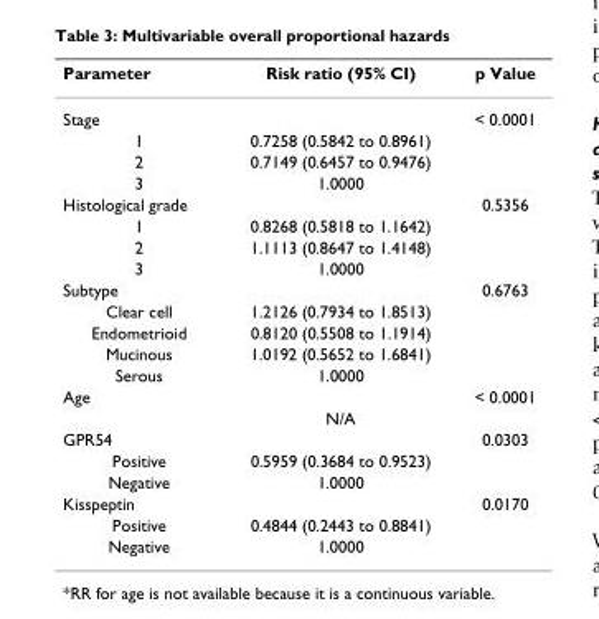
<table><thead><tr><td>Parameter</td><td>Risk ratio (95% CI)</td><td>p Value</td></tr></thead><tbody><tr><td>Stage</td><td></td><td>&lt; 0.0001</td></tr><tr><td>1</td><td>0.7258 (0.5842 to 0.8961)</td><td></td></tr><tr><td>2</td><td>0.7149 (0.6457 to 0.9476)</td><td></td></tr><tr><td>3</td><td>1.0000</td><td></td></tr><tr><td>Histological grade</td><td></td><td>0.5356</td></tr><tr><td>1</td><td>0.8268 (0.5818 to 1.1642)</td><td></td></tr><tr><td>2</td><td>1.1113 (0.8647 to 1.4148)</td><td></td></tr><tr><td>3</td><td>1.0000</td><td></td></tr><tr><td>Subtype</td><td></td><td>0.6763</td></tr><tr><td>Clear cell</td><td>1.2126 (0.7934 to 1.8513)</td><td></td></tr><tr><td>Endometrioid</td><td>0.8120 (0.5508 to 1.1914)</td><td></td></tr><tr><td>Mucinous</td><td>1.0192 (0.5652 to 1.6841)</td><td></td></tr><tr><td>Serous</td><td>1.0000</td><td></td></tr><tr><td rowspan="2">Age</td><td></td><td>&lt; 0.0001</td></tr><tr><td>N/A</td><td></td></tr><tr><td>GPR54</td><td></td><td>0.0303</td></tr><tr><td>Positive</td><td>0.5959 (0.3684 to 0.9523)</td><td></td></tr><tr><td>Negative</td><td>1.0000</td><td></td></tr><tr><td>Kisspeptin</td><td></td><td>0.0170</td></tr><tr><td>Positive</td><td>0.4844 (0.2443 to 0.8841)</td><td></td></tr><tr><td>Negative</td><td>1.0000</td><td></td></tr></tbody></table>